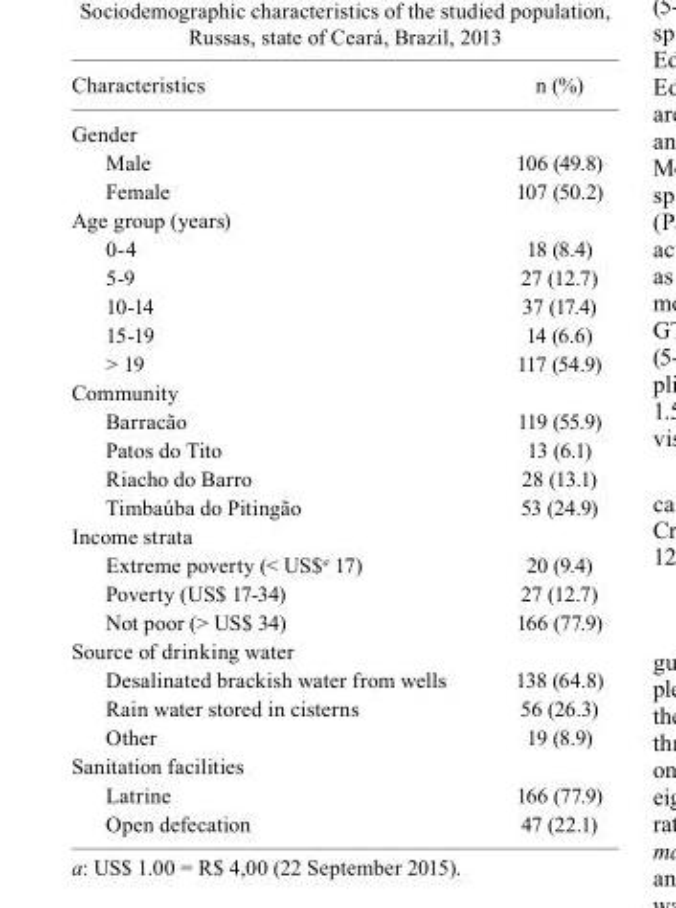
<table><thead><tr><td>Characteristics</td><td>n (%)</td></tr></thead><tbody><tr><td colspan="2">Gender</td></tr><tr><td>Male</td><td>106 (49.8)</td></tr><tr><td>Female</td><td>107 (50.2)</td></tr><tr><td colspan="2">Age group (years)</td></tr><tr><td>0-4</td><td>18 (8.4)</td></tr><tr><td>5-9</td><td>27 (12.7)</td></tr><tr><td>10-14</td><td>37 (17.4)</td></tr><tr><td>15-19</td><td>14 (6.6)</td></tr><tr><td>&gt; 19</td><td>117 (54.9)</td></tr><tr><td colspan="2">Community</td></tr><tr><td>Barracão</td><td>119 (55.9)</td></tr><tr><td>Patos do Tito</td><td>13 (6.1)</td></tr><tr><td>Riacho do Barro</td><td>28 (13.1)</td></tr><tr><td>Timbaúba do Pitingão</td><td>53 (24.9)</td></tr><tr><td colspan="2">Income strata</td></tr><tr><td>Extreme poverty (&lt; US$<sup>a</sup> 17)</td><td>20 (9.4)</td></tr><tr><td>Poverty (US$ 17-34)</td><td>27 (12.7)</td></tr><tr><td>Not poor (&gt; US$ 34)</td><td>166 (77.9)</td></tr><tr><td colspan="2">Source of drinking water</td></tr><tr><td>Desalinated brackish water from wells</td><td>138 (64.8)</td></tr><tr><td>Rain water stored in cisterns</td><td>56 (26.3)</td></tr><tr><td>Other</td><td>19 (8.9)</td></tr><tr><td colspan="2">Sanitation facilities</td></tr><tr><td>Latrine</td><td>166 (77.9)</td></tr><tr><td>Open defecation</td><td>47 (22.1)</td></tr></tbody></table>